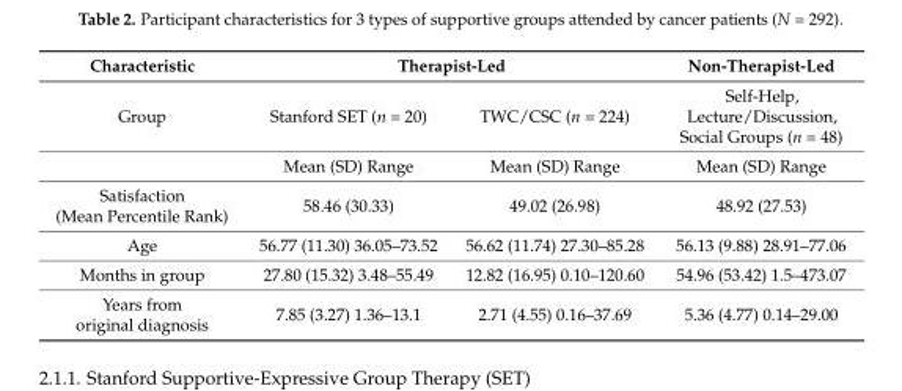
<table><thead><tr><td rowspan="2">Characteristic Group</td><td colspan="2">Therapist-Led</td><td rowspan="2">Non-Therapist-Led Self-Help, Lecture/Discussion, Social Groups (n = 48)</td></tr><tr><td>Stanford SET (n = 20)</td><td>TWC/CSC (n = 224)</td></tr></thead><tbody><tr><td></td><td>Mean (SD) Range</td><td>Mean (SD) Range</td><td>Mean (SD) Range</td></tr><tr><td>Satisfaction (Mean Percentile Rank)</td><td>58.46 (30.33)</td><td>49.02 (26.98)</td><td>48.92 (27.53)</td></tr><tr><td>Age</td><td>56.77 (11.30) 36.05–73.52</td><td>56.62 (11.74) 27.30–85.28</td><td>56.13 (9.88) 28.91–77.06</td></tr><tr><td>Months in group</td><td>27.80 (15.32) 3.48–55.49</td><td>12.82 (16.95) 0.10–120.60</td><td>54.96 (53.42) 1.5–473.07</td></tr><tr><td>Years from original diagnosis</td><td>7.85 (3.27) 1.36–13.1</td><td>2.71 (4.55) 0.16–37.69</td><td>5.36 (4.77) 0.14–29.00</td></tr></tbody></table>